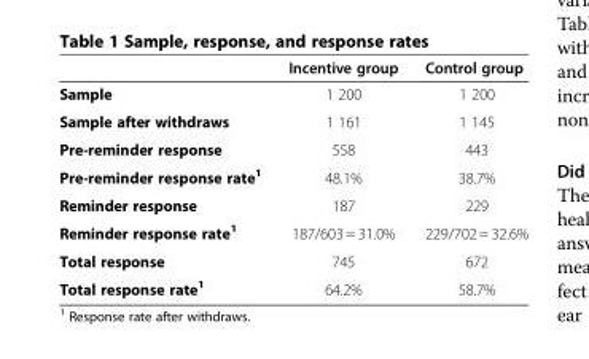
<table><thead><tr><td></td><td>Incentive group</td><td>Control group</td></tr></thead><tbody><tr><td>Sample</td><td>1 200</td><td>1 200</td></tr><tr><td>Sample after withdraws</td><td>1 161</td><td>1 145</td></tr><tr><td>Pre-reminder response</td><td>558</td><td>443</td></tr><tr><td>Pre-reminder response rate<sup>1</sup></td><td>48.1%</td><td>38.7%</td></tr><tr><td>Reminder response</td><td>187</td><td>229</td></tr><tr><td>Reminder response rate<sup>1</sup></td><td>187/603 = 31.0%</td><td>229/702 = 32.6%</td></tr><tr><td>Total response</td><td>745</td><td>672</td></tr><tr><td>Total response rate<sup>1</sup></td><td>64.2%</td><td>58.7%</td></tr></tbody></table>